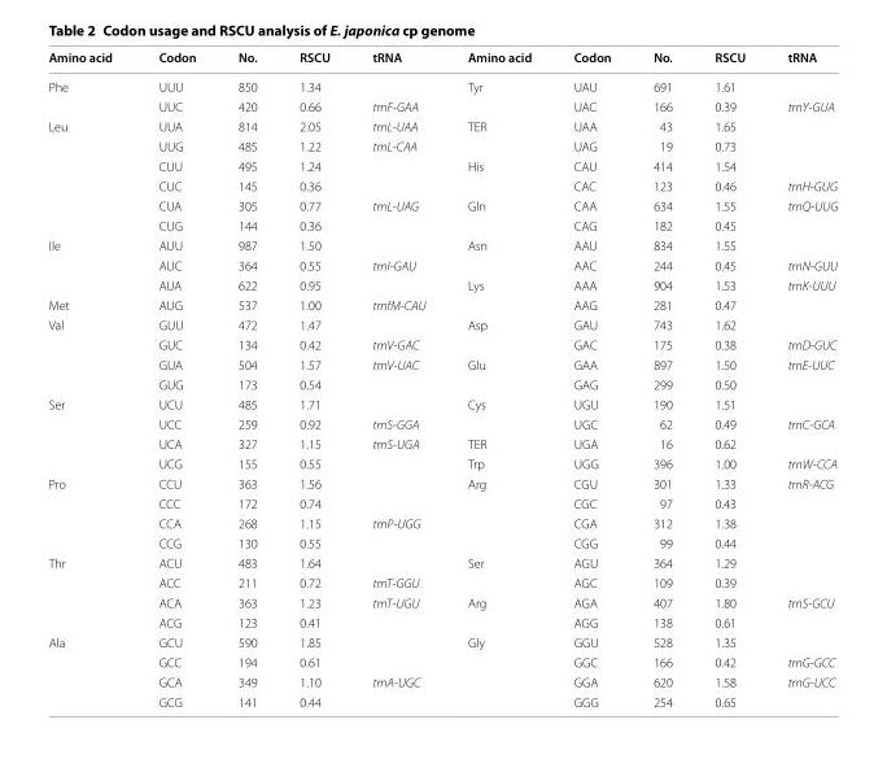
<table><thead><tr><td>Amino acid</td><td>Codon</td><td>No.</td><td>RSCU</td><td>tRNA</td><td>Amino acid</td><td>Codon</td><td>No.</td><td>RSCU</td><td>tRNA</td></tr></thead><tbody><tr><td rowspan="2">Phe</td><td>UUU</td><td>850</td><td>1.34</td><td></td><td>Tyr</td><td>UAU</td><td>691</td><td>1.61</td><td></td></tr><tr><td>UUC</td><td>420</td><td>0.66</td><td>trnF-GAA</td><td></td><td>UAC</td><td>166</td><td>0.39</td><td>trnY-GUA</td></tr><tr><td rowspan="6">Leu</td><td>UUA</td><td>814</td><td>2.05</td><td>trnL-UAA</td><td>TER</td><td>UAA</td><td>43</td><td>1.65</td><td></td></tr><tr><td>UUG</td><td>485</td><td>1.22</td><td>trnL-CAA</td><td></td><td>UAG</td><td>19</td><td>0.73</td><td></td></tr><tr><td>CUU</td><td>495</td><td>1.24</td><td></td><td>His</td><td>CAU</td><td>414</td><td>1.54</td><td></td></tr><tr><td>CUC</td><td>145</td><td>0.36</td><td></td><td></td><td>CAC</td><td>123</td><td>0.46</td><td>trnH-GUG</td></tr><tr><td>CUA</td><td>305</td><td>0.77</td><td>trnL-UAG</td><td>Gln</td><td>CAA</td><td>634</td><td>1.55</td><td>trnQ-UUG</td></tr><tr><td>CUG</td><td>144</td><td>0.36</td><td></td><td></td><td>CAG</td><td>182</td><td>0.45</td><td></td></tr><tr><td rowspan="3">Ile</td><td>AUU</td><td>987</td><td>1.50</td><td></td><td>Asn</td><td>AAU</td><td>834</td><td>1.55</td><td></td></tr><tr><td>AUC</td><td>364</td><td>0.55</td><td>trnI-GAU</td><td></td><td>AAC</td><td>244</td><td>0.45</td><td>trnN-GUU</td></tr><tr><td>AUA</td><td>622</td><td>0.95</td><td></td><td>Lys</td><td>AAA</td><td>904</td><td>1.53</td><td>trnK-UUU</td></tr><tr><td>Met</td><td>AUG</td><td>537</td><td>1.00</td><td>trnfM-CAU</td><td></td><td>AAG</td><td>281</td><td>0.47</td><td></td></tr><tr><td rowspan="4">Val</td><td>GUU</td><td>472</td><td>1.47</td><td></td><td>Asp</td><td>GAU</td><td>743</td><td>1.62</td><td></td></tr><tr><td>GUC</td><td>134</td><td>0.42</td><td>trnV-GAC</td><td></td><td>GAC</td><td>175</td><td>0.38</td><td>trnD-GUC</td></tr><tr><td>GUA</td><td>504</td><td>1.57</td><td>trnV-UAC</td><td>Glu</td><td>GAA</td><td>897</td><td>1.50</td><td>trnE-UUC</td></tr><tr><td>GUG</td><td>173</td><td>0.54</td><td></td><td></td><td>GAG</td><td>299</td><td>0.50</td><td></td></tr><tr><td rowspan="4">Ser</td><td>UCU</td><td>485</td><td>1.71</td><td></td><td>Cys</td><td>UGU</td><td>190</td><td>1.51</td><td></td></tr><tr><td>UCC</td><td>259</td><td>0.92</td><td>trnS-GGA</td><td></td><td>UGC</td><td>62</td><td>0.49</td><td>trnC-GCA</td></tr><tr><td>UCA</td><td>327</td><td>1.15</td><td>trnS-UGA</td><td>TER</td><td>UGA</td><td>16</td><td>0.62</td><td></td></tr><tr><td>UCG</td><td>155</td><td>0.55</td><td></td><td>Trp</td><td>UGG</td><td>396</td><td>1.00</td><td>trnW-CCA</td></tr><tr><td rowspan="4">Pro</td><td>CCU</td><td>363</td><td>1.56</td><td></td><td>Arg</td><td>CGU</td><td>301</td><td>1.33</td><td>trnR-ACG</td></tr><tr><td>CCC</td><td>172</td><td>0.74</td><td></td><td></td><td>CGC</td><td>97</td><td>0.43</td><td></td></tr><tr><td>CCA</td><td>268</td><td>1.15</td><td>trnP-UGG</td><td></td><td>CGA</td><td>312</td><td>1.38</td><td></td></tr><tr><td>CCG</td><td>130</td><td>0.55</td><td></td><td></td><td>CGG</td><td>99</td><td>0.44</td><td></td></tr><tr><td rowspan="4">Thr</td><td>ACU</td><td>483</td><td>1.64</td><td></td><td>Ser</td><td>AGU</td><td>364</td><td>1.29</td><td></td></tr><tr><td>ACC</td><td>211</td><td>0.72</td><td>trnT-GGU</td><td></td><td>AGC</td><td>109</td><td>0.39</td><td></td></tr><tr><td>ACA</td><td>363</td><td>1.23</td><td>trnT-UGU</td><td>Arg</td><td>AGA</td><td>407</td><td>1.80</td><td>trnS-GCU</td></tr><tr><td>ACG</td><td>123</td><td>0.41</td><td></td><td></td><td>AGG</td><td>138</td><td>0.61</td><td></td></tr><tr><td rowspan="4">Ala</td><td>GCU</td><td>590</td><td>1.85</td><td></td><td>Gly</td><td>GGU</td><td>528</td><td>1.35</td><td></td></tr><tr><td>GCC</td><td>194</td><td>0.61</td><td></td><td></td><td>GGC</td><td>166</td><td>0.42</td><td>trnG-GCC</td></tr><tr><td>GCA</td><td>349</td><td>1.10</td><td>trnA-UGC</td><td></td><td>GGA</td><td>620</td><td>1.58</td><td>trnG-UCC</td></tr><tr><td>GCG</td><td>141</td><td>0.44</td><td></td><td></td><td>GGG</td><td>254</td><td>0.65</td><td></td></tr></tbody></table>